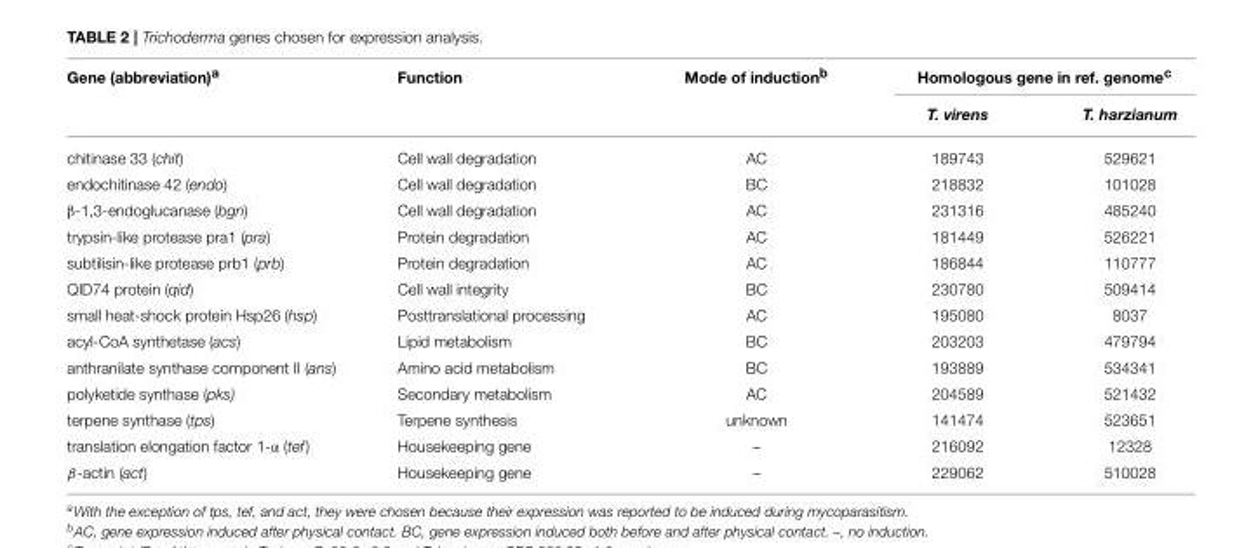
<table><thead><tr><td rowspan="2">Gene (abbreviation)<sup>a</sup></td><td rowspan="2">Function</td><td rowspan="2">Mode of induction<sup>b</sup></td><td colspan="2">Homologous gene in ref. genome<sup>c</sup></td></tr><tr><td>T. virens</td><td>T. harzianum</td></tr></thead><tbody><tr><td>chitinase 33 (chit)</td><td>Cell wall degradation</td><td>AC</td><td>189743</td><td>529621</td></tr><tr><td>endochitinase 42 (endo)</td><td>Cell wall degradation</td><td>BC</td><td>218832</td><td>101028</td></tr><tr><td>β-1,3-endoglucanase (bgn)</td><td>Cell wall degradation</td><td>AC</td><td>231316</td><td>485240</td></tr><tr><td>trypsin-like protease pra1 (pra)</td><td>Protein degradation</td><td>AC</td><td>181449</td><td>526221</td></tr><tr><td>subtilisin-like protease prb1 (prb)</td><td>Protein degradation</td><td>AC</td><td>186844</td><td>110777</td></tr><tr><td>QID74 protein (qid)</td><td>Cell wall integrity</td><td>BC</td><td>230780</td><td>509414</td></tr><tr><td>small heat-shock protein Hsp26 (hsp)</td><td>Posttranslational processing</td><td>AC</td><td>195080</td><td>8037</td></tr><tr><td>acyl-CoA synthetase (acs)</td><td>Lipid metabolism</td><td>BC</td><td>203203</td><td>479794</td></tr><tr><td>anthranilate synthase component II (ans)</td><td>Amino acid metabolism</td><td>BC</td><td>193889</td><td>534341</td></tr><tr><td>polyketide synthase (pks)</td><td>Secondary metabolism</td><td>AC</td><td>204589</td><td>521432</td></tr><tr><td>terpene synthase (tps)</td><td>Terpene synthesis</td><td>unknown</td><td>141474</td><td>523651</td></tr><tr><td>translation elongation factor 1-α (tef)</td><td>Housekeeping gene</td><td>–</td><td>216092</td><td>12328</td></tr><tr><td>β-actin (act)</td><td>Housekeeping gene</td><td>–</td><td>229062</td><td>510028</td></tr></tbody></table>